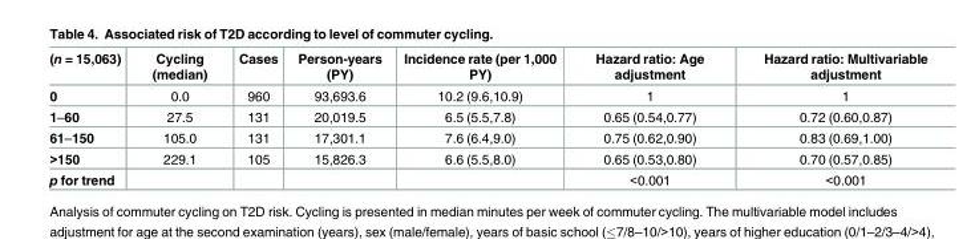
<table><thead><tr><td>(n = 15,063)</td><td>Cycling (median)</td><td>Cases</td><td>Person-years (PY)</td><td>Incidence rate (per 1,000 PY)</td><td>Hazard ratio: Age adjustment</td><td>Hazard ratio: Multivariable adjustment</td></tr></thead><tbody><tr><td>0</td><td>0.0</td><td>960</td><td>93,693.6</td><td>10.2 (9.6,10.9)</td><td>1</td><td>1</td></tr><tr><td>1–60</td><td>27.5</td><td>131</td><td>20,019.5</td><td>6.5 (5.5,7.8)</td><td>0.65 (0.54,0.77)</td><td>0.72 (0.60,0.87)</td></tr><tr><td>61–150</td><td>105.0</td><td>131</td><td>17,301.1</td><td>7.6 (6.4,9.0)</td><td>0.75 (0.62,0.90)</td><td>0.83 (0.69,1.00)</td></tr><tr><td>&gt;150</td><td>229.1</td><td>105</td><td>15,826.3</td><td>6.6 (5.5,8.0)</td><td>0.65 (0.53,0.80)</td><td>0.70 (0.57,0.85)</td></tr><tr><td>p for trend</td><td></td><td></td><td></td><td></td><td>&lt;0.001</td><td>&lt;0.001</td></tr></tbody></table>